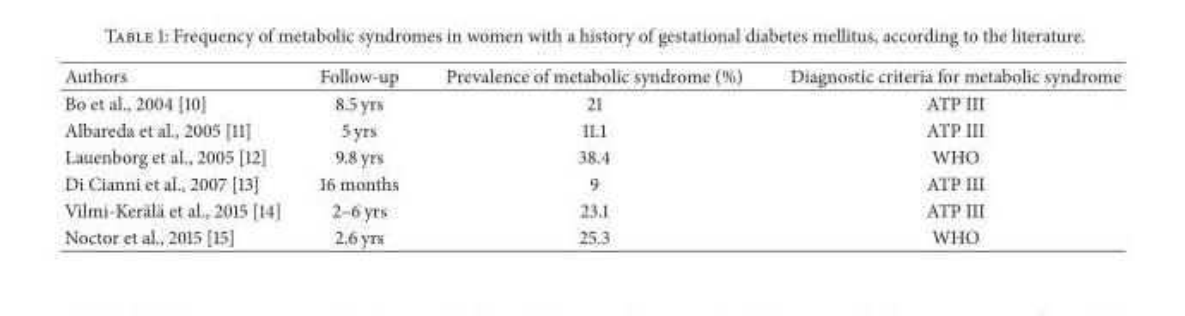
<table><thead><tr><td>Authors</td><td>Follow-up</td><td>Prevalence of metabolic syndrome (%)</td><td>Diagnostic criteria for metabolic syndrome</td></tr></thead><tbody><tr><td>Bo et al., 2004 [10]</td><td>8.5 yrs</td><td>21</td><td>ATP III</td></tr><tr><td>Albareda et al., 2005 [11]</td><td>5 yrs</td><td>11.1</td><td>ATP III</td></tr><tr><td>Lauenborg et al., 2005 [12]</td><td>9.8 yrs</td><td>38.4</td><td>WHO</td></tr><tr><td>Di Cianni et al., 2007 [13]</td><td>16 months</td><td>9</td><td>ATP III</td></tr><tr><td>Vilmi-Ker¨al¨a et al., 2015 [14]</td><td>2–6 yrs</td><td>23.1</td><td>ATP III</td></tr><tr><td>Noctor et al., 2015 [15]</td><td>2.6 yrs</td><td>25.3</td><td>WHO</td></tr></tbody></table>